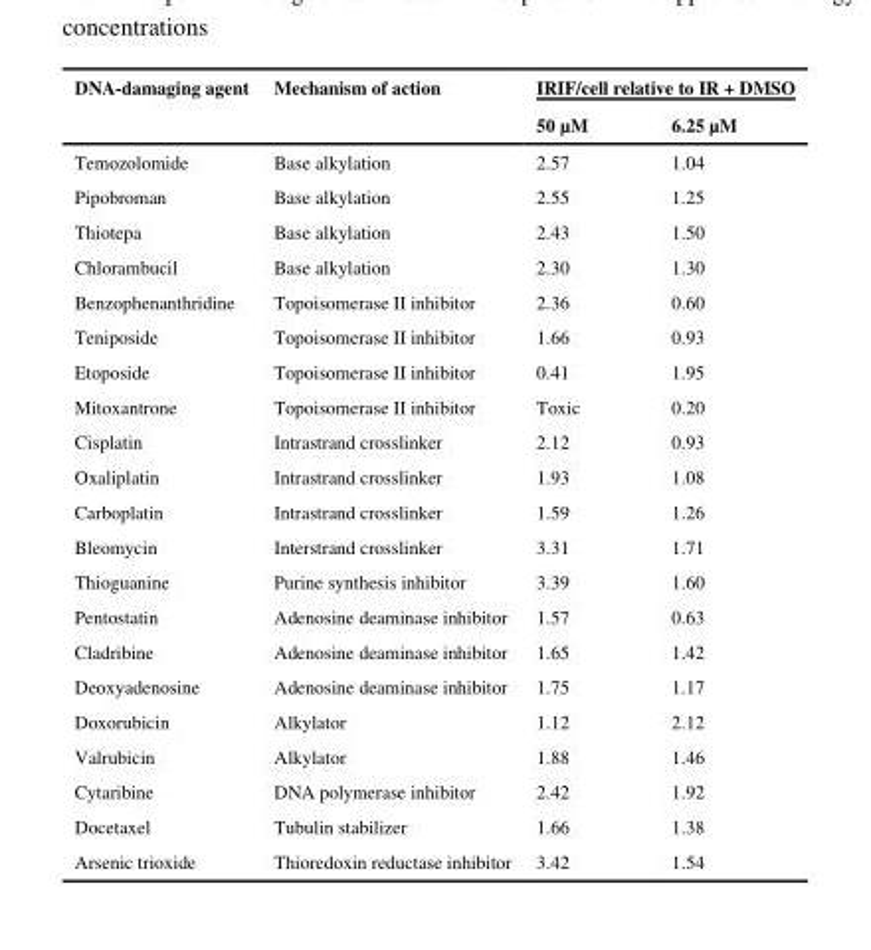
<table><thead><tr><td rowspan="2">DNA-damaging agent</td><td rowspan="2">Mechanism of action</td><td colspan="2">IRIF/cell relative to IR + DMSO</td></tr><tr><td>50 μM</td><td>6.25 μM</td></tr></thead><tbody><tr><td>Temozolomide</td><td>Base alkylation</td><td>2.57</td><td>1.04</td></tr><tr><td>Pipobroman</td><td>Base alkylation</td><td>2.55</td><td>1.25</td></tr><tr><td>Thiotepa</td><td>Base alkylation</td><td>2.43</td><td>1.50</td></tr><tr><td>Chlorambucil</td><td>Base alkylation</td><td>2.30</td><td>1.30</td></tr><tr><td>Benzophenanthridine</td><td>Topoisomerase II inhibitor</td><td>2.36</td><td>0.60</td></tr><tr><td>Teniposide</td><td>Topoisomerase II inhibitor</td><td>1.66</td><td>0.93</td></tr><tr><td>Etoposide</td><td>Topoisomerase II inhibitor</td><td>0.41</td><td>1.95</td></tr><tr><td>Mitoxantrone</td><td>Topoisomerase II inhibitor</td><td>Toxic</td><td>0.20</td></tr><tr><td>Cisplatin</td><td>Intrastrand crosslinker</td><td>2.12</td><td>0.93</td></tr><tr><td>Oxaliplatin</td><td>Intrastrand crosslinker</td><td>1.93</td><td>1.08</td></tr><tr><td>Carboplatin</td><td>Intrastrand crosslinker</td><td>1.59</td><td>1.26</td></tr><tr><td>Bleomycin</td><td>Interstrand crosslinker</td><td>3.31</td><td>1.71</td></tr><tr><td>Thioguanine</td><td>Purine synthesis inhibitor</td><td>3.39</td><td>1.60</td></tr><tr><td>Pentostatin</td><td>Adenosine deaminase inhibitor</td><td>1.57</td><td>0.63</td></tr><tr><td>Cladribine</td><td>Adenosine deaminase inhibitor</td><td>1.65</td><td>1.42</td></tr><tr><td>Deoxyadenosine</td><td>Adenosine deaminase inhibitor</td><td>1.75</td><td>1.17</td></tr><tr><td>Doxorubicin</td><td>Alkylator</td><td>1.12</td><td>2.12</td></tr><tr><td>Valrubicin</td><td>Alkylator</td><td>1.88</td><td>1.46</td></tr><tr><td>Cytaribine</td><td>DNA polymerase inhibitor</td><td>2.42</td><td>1.92</td></tr><tr><td>Docetaxel</td><td>Tubulin stabilizer</td><td>1.66</td><td>1.38</td></tr><tr><td>Arsenic trioxide</td><td>Thioredoxin reductase inhibitor</td><td>3.42</td><td>1.54</td></tr></tbody></table>